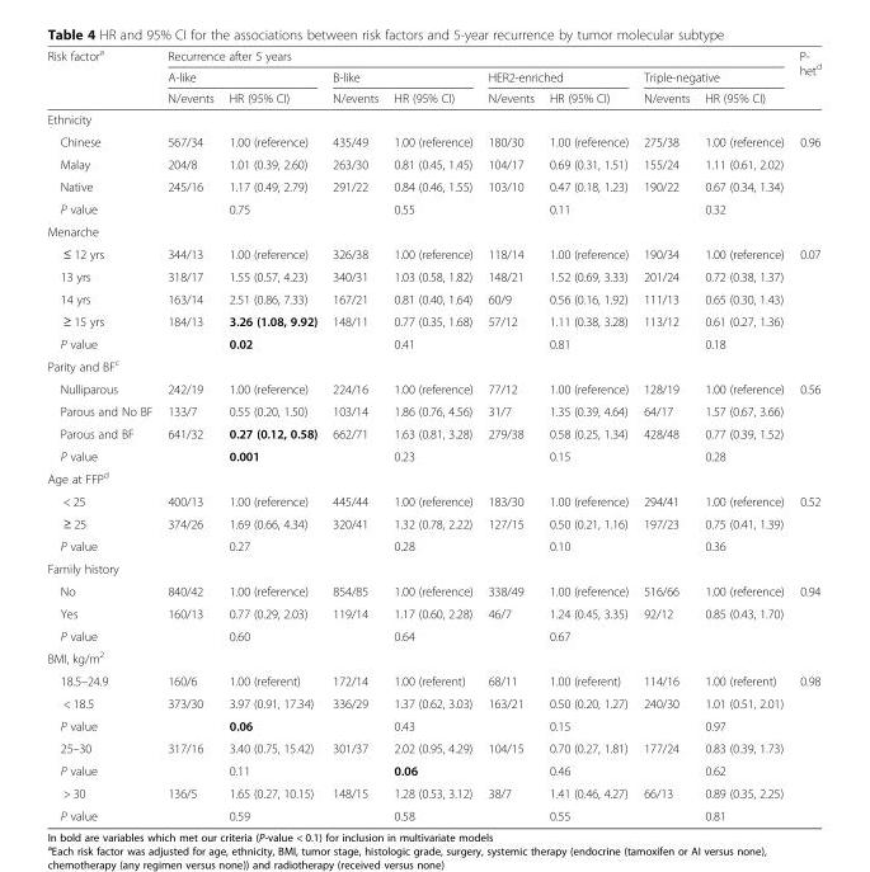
<table><thead><tr><td rowspan="3">Risk factor<sup>a</sup></td><td colspan="8">Recurrence after 5 years</td><td rowspan="3">P- het<sup>d</sup></td></tr><tr><td colspan="2">A-like</td><td colspan="2">B-like</td><td colspan="2">HER2-enriched</td><td colspan="2">Triple-negative</td></tr><tr><td>N/events</td><td>HR (95% CI)</td><td>N/events</td><td>HR (95% CI)</td><td>N/events</td><td>HR (95% CI)</td><td>N/events</td><td>HR (95% CI)</td></tr></thead><tbody><tr><td colspan="10">Ethnicity</td></tr><tr><td>Chinese</td><td>567/34</td><td>1.00 (reference)</td><td>435/49</td><td>1.00 (reference)</td><td>180/30</td><td>1.00 (reference)</td><td>275/38</td><td>1.00 (reference)</td><td>0.96</td></tr><tr><td>Malay</td><td>204/8</td><td>1.01 (0.39, 2.60)</td><td>263/30</td><td>0.81 (0.45, 1.45)</td><td>104/17</td><td>0.69 (0.31, 1.51)</td><td>155/24</td><td>1.11 (0.61, 2.02)</td><td></td></tr><tr><td>Native</td><td>245/16</td><td>1.17 (0.49, 2.79)</td><td>291/22</td><td>0.84 (0.46, 1.55)</td><td>103/10</td><td>0.47 (0.18, 1.23)</td><td>190/22</td><td>0.67 (0.34, 1.34)</td><td></td></tr><tr><td>P value</td><td></td><td>0.75</td><td></td><td>0.55</td><td></td><td>0.11</td><td></td><td>0.32</td><td></td></tr><tr><td colspan="10">Menarche</td></tr><tr><td>≤ 12 yrs</td><td>344/13</td><td>1.00 (reference)</td><td>326/38</td><td>1.00 (reference)</td><td>118/14</td><td>1.00 (reference)</td><td>190/34</td><td>1.00 (reference)</td><td>0.07</td></tr><tr><td>13 yrs</td><td>318/17</td><td>1.55 (0.57, 4.23)</td><td>340/31</td><td>1.03 (0.58, 1.82)</td><td>148/21</td><td>1.52 (0.69, 3.33)</td><td>201/24</td><td>0.72 (0.38, 1.37)</td><td></td></tr><tr><td>14 yrs</td><td>163/14</td><td>2.51 (0.86, 7.33)</td><td>167/21</td><td>0.81 (0.40, 1.64)</td><td>60/9</td><td>0.56 (0.16, 1.92)</td><td>111/13</td><td>0.65 (0.30, 1.43)</td><td></td></tr><tr><td>≥ 15 yrs</td><td>184/13</td><td>3.26 (1.08, 9.92)</td><td>148/11</td><td>0.77 (0.35, 1.68)</td><td>57/12</td><td>1.11 (0.38, 3.28)</td><td>113/12</td><td>0.61 (0.27, 1.36)</td><td></td></tr><tr><td>P value</td><td></td><td>0.02</td><td></td><td>0.41</td><td></td><td>0.81</td><td></td><td>0.18</td><td></td></tr><tr><td colspan="10">Parity and BF<sup>c</sup></td></tr><tr><td>Nulliparous</td><td>242/19</td><td>1.00 (reference)</td><td>224/16</td><td>1.00 (reference)</td><td>77/12</td><td>1.00 (reference)</td><td>128/19</td><td>1.00 (reference)</td><td>0.56</td></tr><tr><td>Parous and No BF</td><td>133/7</td><td>0.55 (0.20, 1.50)</td><td>103/14</td><td>1.86 (0.76, 4.56)</td><td>31/7</td><td>1.35 (0.39, 4.64)</td><td>64/17</td><td>1.57 (0.67, 3.66)</td><td></td></tr><tr><td>Parous and BF</td><td>641/32</td><td>0.27 (0.12, 0.58)</td><td>662/71</td><td>1.63 (0.81, 3.28)</td><td>279/38</td><td>0.58 (0.25, 1.34)</td><td>428/48</td><td>0.77 (0.39, 1.52)</td><td></td></tr><tr><td>P value</td><td></td><td>0.001</td><td></td><td>0.23</td><td></td><td>0.15</td><td></td><td>0.28</td><td></td></tr><tr><td colspan="10">Age at FFP<sup>d</sup></td></tr><tr><td>&lt; 25</td><td>400/13</td><td>1.00 (reference)</td><td>445/44</td><td>1.00 (reference)</td><td>183/30</td><td>1.00 (reference)</td><td>294/41</td><td>1.00 (reference)</td><td>0.52</td></tr><tr><td>≥ 25</td><td>374/26</td><td>1.69 (0.66, 4.34)</td><td>320/41</td><td>1.32 (0.78, 2.22)</td><td>127/15</td><td>0.50 (0.21, 1.16)</td><td>197/23</td><td>0.75 (0.41, 1.39)</td><td></td></tr><tr><td>P value</td><td></td><td>0.27</td><td></td><td>0.28</td><td></td><td>0.10</td><td></td><td>0.36</td><td></td></tr><tr><td colspan="10">Family history</td></tr><tr><td>No</td><td>840/42</td><td>1.00 (reference)</td><td>854/85</td><td>1.00 (reference)</td><td>338/49</td><td>1.00 (reference)</td><td>516/66</td><td>1.00 (reference)</td><td>0.94</td></tr><tr><td>Yes</td><td>160/13</td><td>0.77 (0.29, 2.03)</td><td>119/14</td><td>1.17 (0.60, 2.28)</td><td>46/7</td><td>1.24 (0.45, 3.35)</td><td>92/12</td><td>0.85 (0.43, 1.70)</td><td></td></tr><tr><td>P value</td><td></td><td>0.60</td><td></td><td>0.64</td><td></td><td>0.67</td><td></td><td></td><td></td></tr><tr><td colspan="10">BMI, kg/m<sup>2</sup></td></tr><tr><td>18.5–24.9</td><td>160/6</td><td>1.00 (referent)</td><td>172/14</td><td>1.00 (referent)</td><td>68/11</td><td>1.00 (referent)</td><td>114/16</td><td>1.00 (referent)</td><td>0.98</td></tr><tr><td>&lt; 18.5</td><td>373/30</td><td>3.97 (0.91, 17.34)</td><td>336/29</td><td>1.37 (0.62, 3.03)</td><td>163/21</td><td>0.50 (0.20, 1.27)</td><td>240/30</td><td>1.01 (0.51, 2.01)</td><td></td></tr><tr><td>P value</td><td></td><td>0.06</td><td></td><td>0.43</td><td></td><td>0.15</td><td></td><td>0.97</td><td></td></tr><tr><td>25–30</td><td>317/16</td><td>3.40 (0.75, 15.42)</td><td>301/37</td><td>2.02 (0.95, 4.29)</td><td>104/15</td><td>0.70 (0.27, 1.81)</td><td>177/24</td><td>0.83 (0.39, 1.73)</td><td></td></tr><tr><td>P value</td><td></td><td>0.11</td><td></td><td>0.06</td><td></td><td>0.46</td><td></td><td>0.62</td><td></td></tr><tr><td>&gt; 30</td><td>136/5</td><td>1.65 (0.27, 10.15)</td><td>148/15</td><td>1.28 (0.53, 3.12)</td><td>38/7</td><td>1.41 (0.46, 4.27)</td><td>66/13</td><td>0.89 (0.35, 2.25)</td><td></td></tr><tr><td>P value</td><td></td><td>0.59</td><td></td><td>0.58</td><td></td><td>0.55</td><td></td><td>0.81</td><td></td></tr></tbody></table>